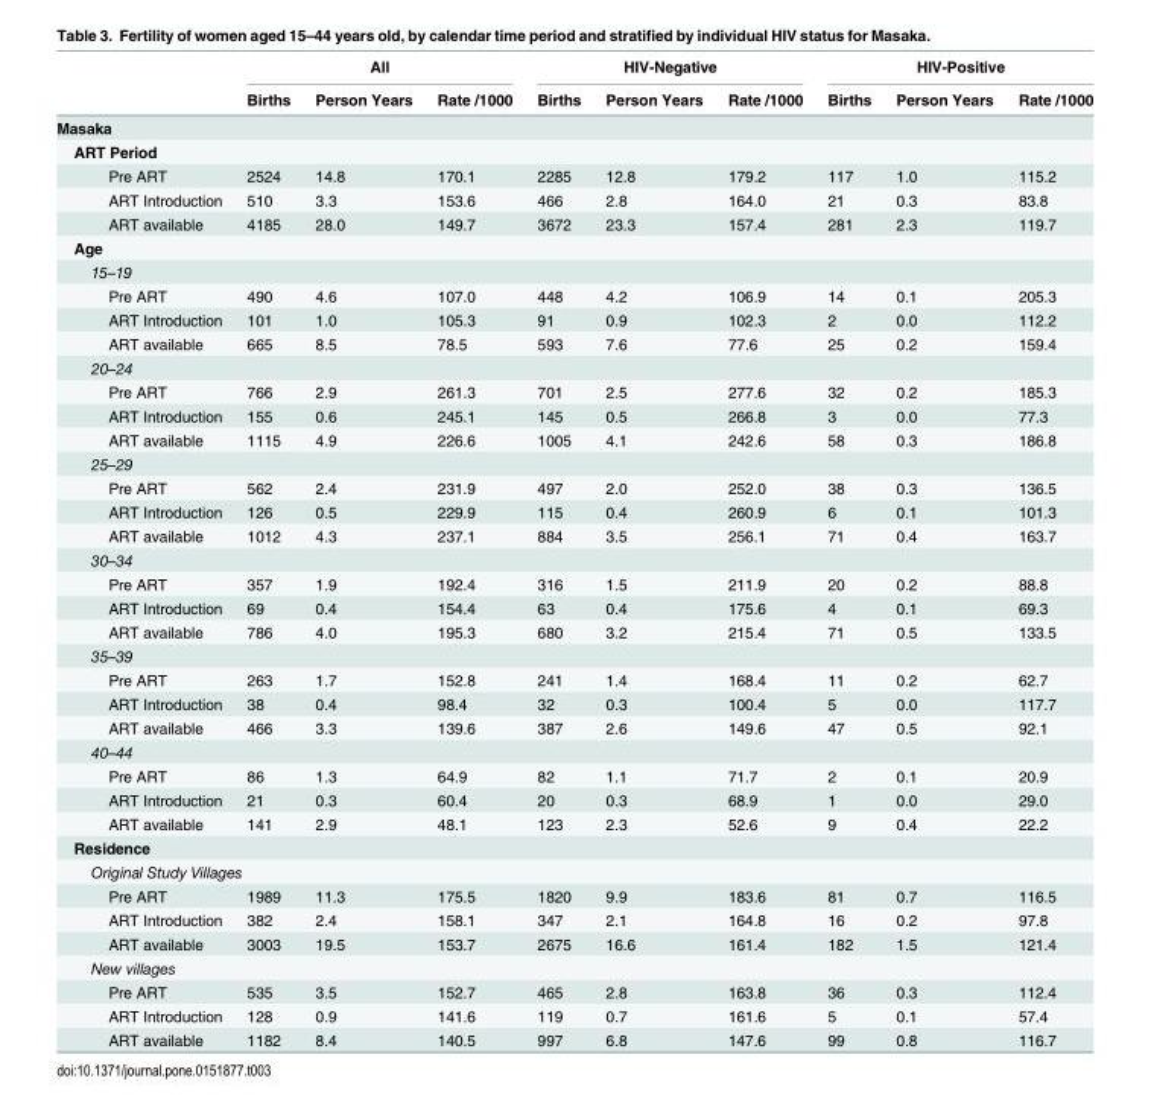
<table><thead><tr><td rowspan="2"></td><td colspan="3">All</td><td colspan="3">HIV-Negative</td><td colspan="3">HIV-Positive</td></tr><tr><td>Births</td><td>Person Years</td><td>Rate /1000</td><td>Births</td><td>Person Years</td><td>Rate /1000</td><td>Births</td><td>Person Years</td><td>Rate /1000</td></tr></thead><tbody><tr><td colspan="10">Masaka</td></tr><tr><td colspan="10">ART Period</td></tr><tr><td>Pre ART</td><td>2524</td><td>14.8</td><td>170.1</td><td>2285</td><td>12.8</td><td>179.2</td><td>117</td><td>1.0</td><td>115.2</td></tr><tr><td>ART Introduction</td><td>510</td><td>3.3</td><td>153.6</td><td>466</td><td>2.8</td><td>164.0</td><td>21</td><td>0.3</td><td>83.8</td></tr><tr><td>ART available</td><td>4185</td><td>28.0</td><td>149.7</td><td>3672</td><td>23.3</td><td>157.4</td><td>281</td><td>2.3</td><td>119.7</td></tr><tr><td colspan="10">Age</td></tr><tr><td colspan="10">15–19</td></tr><tr><td>Pre ART</td><td>490</td><td>4.6</td><td>107.0</td><td>448</td><td>4.2</td><td>106.9</td><td>14</td><td>0.1</td><td>205.3</td></tr><tr><td>ART Introduction</td><td>101</td><td>1.0</td><td>105.3</td><td>91</td><td>0.9</td><td>102.3</td><td>2</td><td>0.0</td><td>112.2</td></tr><tr><td>ART available</td><td>665</td><td>8.5</td><td>78.5</td><td>593</td><td>7.6</td><td>77.6</td><td>25</td><td>0.2</td><td>159.4</td></tr><tr><td colspan="10">20–24</td></tr><tr><td>Pre ART</td><td>766</td><td>2.9</td><td>261.3</td><td>701</td><td>2.5</td><td>277.6</td><td>32</td><td>0.2</td><td>185.3</td></tr><tr><td>ART Introduction</td><td>155</td><td>0.6</td><td>245.1</td><td>145</td><td>0.5</td><td>266.8</td><td>3</td><td>0.0</td><td>77.3</td></tr><tr><td>ART available</td><td>1115</td><td>4.9</td><td>226.6</td><td>1005</td><td>4.1</td><td>242.6</td><td>58</td><td>0.3</td><td>186.8</td></tr><tr><td colspan="10">25–29</td></tr><tr><td>Pre ART</td><td>562</td><td>2.4</td><td>231.9</td><td>497</td><td>2.0</td><td>252.0</td><td>38</td><td>0.3</td><td>136.5</td></tr><tr><td>ART Introduction</td><td>126</td><td>0.5</td><td>229.9</td><td>115</td><td>0.4</td><td>260.9</td><td>6</td><td>0.1</td><td>101.3</td></tr><tr><td>ART available</td><td>1012</td><td>4.3</td><td>237.1</td><td>884</td><td>3.5</td><td>256.1</td><td>71</td><td>0.4</td><td>163.7</td></tr><tr><td colspan="10">30–34</td></tr><tr><td>Pre ART</td><td>357</td><td>1.9</td><td>192.4</td><td>316</td><td>1.5</td><td>211.9</td><td>20</td><td>0.2</td><td>88.8</td></tr><tr><td>ART Introduction</td><td>69</td><td>0.4</td><td>154.4</td><td>63</td><td>0.4</td><td>175.6</td><td>4</td><td>0.1</td><td>69.3</td></tr><tr><td>ART available</td><td>786</td><td>4.0</td><td>195.3</td><td>680</td><td>3.2</td><td>215.4</td><td>71</td><td>0.5</td><td>133.5</td></tr><tr><td colspan="10">35–39</td></tr><tr><td>Pre ART</td><td>263</td><td>1.7</td><td>152.8</td><td>241</td><td>1.4</td><td>168.4</td><td>11</td><td>0.2</td><td>62.7</td></tr><tr><td>ART Introduction</td><td>38</td><td>0.4</td><td>98.4</td><td>32</td><td>0.3</td><td>100.4</td><td>5</td><td>0.0</td><td>117.7</td></tr><tr><td>ART available</td><td>466</td><td>3.3</td><td>139.6</td><td>387</td><td>2.6</td><td>149.6</td><td>47</td><td>0.5</td><td>92.1</td></tr><tr><td colspan="10">40–44</td></tr><tr><td>Pre ART</td><td>86</td><td>1.3</td><td>64.9</td><td>82</td><td>1.1</td><td>71.7</td><td>2</td><td>0.1</td><td>20.9</td></tr><tr><td>ART Introduction</td><td>21</td><td>0.3</td><td>60.4</td><td>20</td><td>0.3</td><td>68.9</td><td>1</td><td>0.0</td><td>29.0</td></tr><tr><td>ART available</td><td>141</td><td>2.9</td><td>48.1</td><td>123</td><td>2.3</td><td>52.6</td><td>9</td><td>0.4</td><td>22.2</td></tr><tr><td colspan="10">Residence</td></tr><tr><td colspan="10">Original Study Villages</td></tr><tr><td>Pre ART</td><td>1989</td><td>11.3</td><td>175.5</td><td>1820</td><td>9.9</td><td>183.6</td><td>81</td><td>0.7</td><td>116.5</td></tr><tr><td>ART Introduction</td><td>382</td><td>2.4</td><td>158.1</td><td>347</td><td>2.1</td><td>164.8</td><td>16</td><td>0.2</td><td>97.8</td></tr><tr><td>ART available</td><td>3003</td><td>19.5</td><td>153.7</td><td>2675</td><td>16.6</td><td>161.4</td><td>182</td><td>1.5</td><td>121.4</td></tr><tr><td colspan="10">New villages</td></tr><tr><td>Pre ART</td><td>535</td><td>3.5</td><td>152.7</td><td>465</td><td>2.8</td><td>163.8</td><td>36</td><td>0.3</td><td>112.4</td></tr><tr><td>ART Introduction</td><td>128</td><td>0.9</td><td>141.6</td><td>119</td><td>0.7</td><td>161.6</td><td>5</td><td>0.1</td><td>57.4</td></tr><tr><td>ART available</td><td>1182</td><td>8.4</td><td>140.5</td><td>997</td><td>6.8</td><td>147.6</td><td>99</td><td>0.8</td><td>116.7</td></tr></tbody></table>